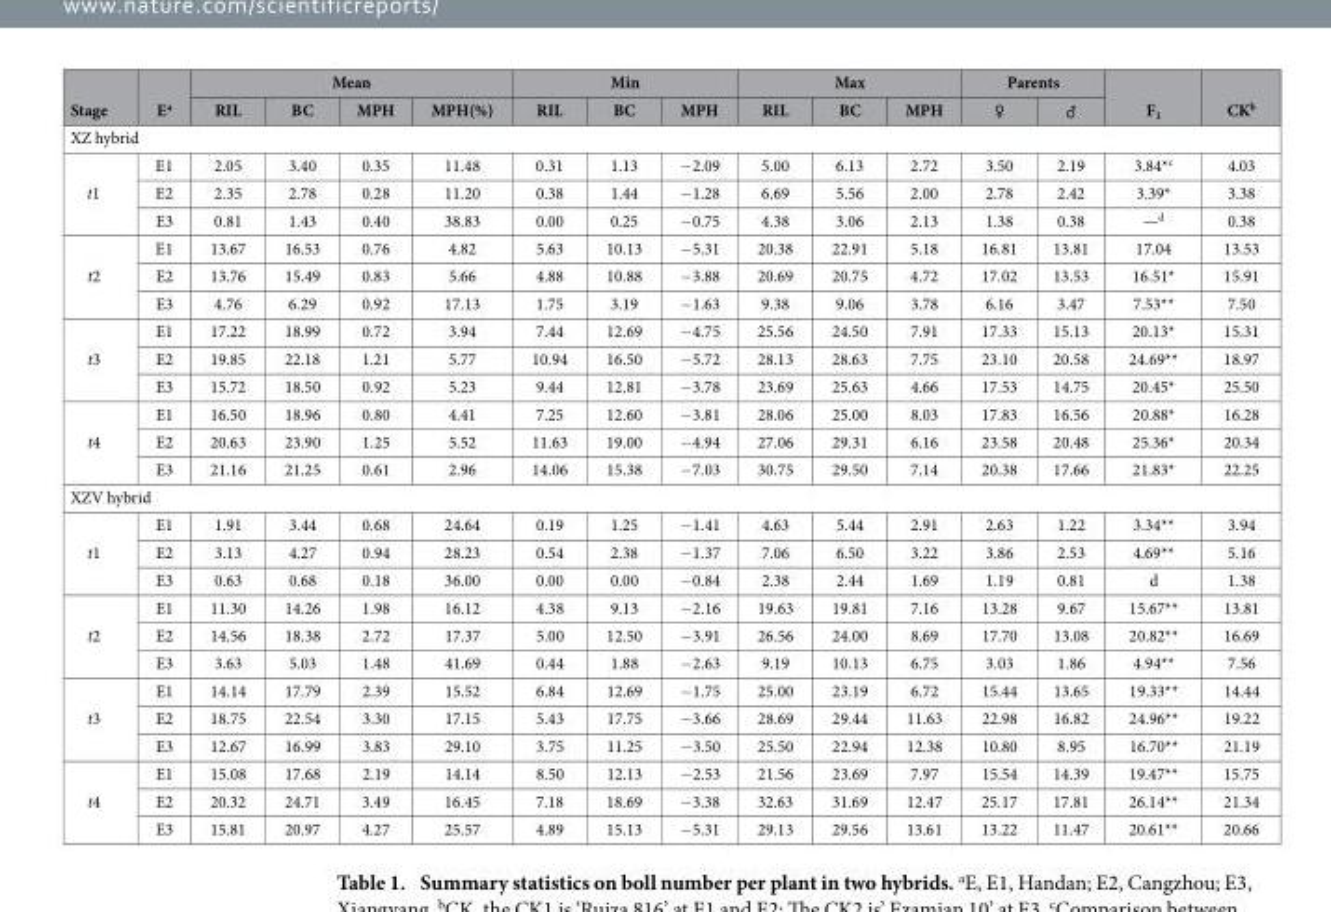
<table><thead><tr><td rowspan="2">Stage</td><td rowspan="2">E<sup>a</sup></td><td colspan="4">Mean</td><td colspan="3">Min</td><td colspan="3">Max</td><td colspan="2">Parents</td><td rowspan="2">F<sub>1</sub></td><td rowspan="2">CK<sup>b</sup></td></tr><tr><td>RIL</td><td>BC</td><td>MPH</td><td>MPH(%)</td><td>RIL</td><td>BC</td><td>MPH</td><td>RIL</td><td>BC</td><td>MPH</td><td>♀</td><td>♂</td></tr></thead><tbody><tr><td colspan="16">XZ hybrid</td></tr><tr><td rowspan="3">t1</td><td>E1</td><td>2.05</td><td>3.40</td><td>0.35</td><td>11.48</td><td>0.31</td><td>1.13</td><td>− 2.09</td><td>5.00</td><td>6.13</td><td>2.72</td><td>3.50</td><td>2.19</td><td>3.84*<sup>c</sup></td><td>4.03</td></tr><tr><td>E2</td><td>2.35</td><td>2.78</td><td>0.28</td><td>11.20</td><td>0.38</td><td>1.44</td><td>− 1.28</td><td>6.69</td><td>5.56</td><td>2.00</td><td>2.78</td><td>2.42</td><td>3.39*</td><td>3.38</td></tr><tr><td>E3</td><td>0.81</td><td>1.43</td><td>0.40</td><td>38.83</td><td>0.00</td><td>0.25</td><td>− 0.75</td><td>4.38</td><td>3.06</td><td>2.13</td><td>1.38</td><td>0.38</td><td>—d</td><td>0.38</td></tr><tr><td rowspan="3">t2</td><td>E1</td><td>13.67</td><td>16.53</td><td>0.76</td><td>4.82</td><td>5.63</td><td>10.13</td><td>− 5.31</td><td>20.38</td><td>22.91</td><td>5.18</td><td>16.81</td><td>13.81</td><td>17.04</td><td>13.53</td></tr><tr><td>E2</td><td>13.76</td><td>15.49</td><td>0.83</td><td>5.66</td><td>4.88</td><td>10.88</td><td>− 3.88</td><td>20.69</td><td>20.75</td><td>4.72</td><td>17.02</td><td>13.53</td><td>16.51*</td><td>15.91</td></tr><tr><td>E3</td><td>4.76</td><td>6.29</td><td>0.92</td><td>17.13</td><td>1.75</td><td>3.19</td><td>− 1.63</td><td>9.38</td><td>9.06</td><td>3.78</td><td>6.16</td><td>3.47</td><td>7.53**</td><td>7.50</td></tr><tr><td rowspan="3">t3</td><td>E1</td><td>17.22</td><td>18.99</td><td>0.72</td><td>3.94</td><td>7.44</td><td>12.69</td><td>− 4.75</td><td>25.56</td><td>24.50</td><td>7.91</td><td>17.33</td><td>15.13</td><td>20.13*</td><td>15.31</td></tr><tr><td>E2</td><td>19.85</td><td>22.18</td><td>1.21</td><td>5.77</td><td>10.94</td><td>16.50</td><td>− 5.72</td><td>28.13</td><td>28.63</td><td>7.75</td><td>23.10</td><td>20.58</td><td>24.69**</td><td>18.97</td></tr><tr><td>E3</td><td>15.72</td><td>18.50</td><td>0.92</td><td>5.23</td><td>9.44</td><td>12.81</td><td>− 3.78</td><td>23.69</td><td>25.63</td><td>4.66</td><td>17.53</td><td>14.75</td><td>20.45*</td><td>25.50</td></tr><tr><td rowspan="3">t4</td><td>E1</td><td>16.50</td><td>18.96</td><td>0.80</td><td>4.41</td><td>7.25</td><td>12.60</td><td>− 3.81</td><td>28.06</td><td>25.00</td><td>8.03</td><td>17.83</td><td>16.56</td><td>20.88*</td><td>16.28</td></tr><tr><td>E2</td><td>20.63</td><td>23.90</td><td>1.25</td><td>5.52</td><td>11.63</td><td>19.00</td><td>− 4.94</td><td>27.06</td><td>29.31</td><td>6.16</td><td>23.58</td><td>20.48</td><td>25.36*</td><td>20.34</td></tr><tr><td>E3</td><td>21.16</td><td>21.25</td><td>0.61</td><td>2.96</td><td>14.06</td><td>15.38</td><td>− 7.03</td><td>30.75</td><td>29.50</td><td>7.14</td><td>20.38</td><td>17.66</td><td>21.83*</td><td>22.25</td></tr><tr><td colspan="16">XZV hybrid</td></tr><tr><td rowspan="3">t1</td><td>E1</td><td>1.91</td><td>3.44</td><td>0.68</td><td>24.64</td><td>0.19</td><td>1.25</td><td>− 1.41</td><td>4.63</td><td>5.44</td><td>2.91</td><td>2.63</td><td>1.22</td><td>3.34**</td><td>3.94</td></tr><tr><td>E2</td><td>3.13</td><td>4.27</td><td>0.94</td><td>28.23</td><td>0.54</td><td>2.38</td><td>− 1.37</td><td>7.06</td><td>6.50</td><td>3.22</td><td>3.86</td><td>2.53</td><td>4.69**</td><td>5.16</td></tr><tr><td>E3</td><td>0.63</td><td>0.68</td><td>0.18</td><td>36.00</td><td>0.00</td><td>0.00</td><td>− 0.84</td><td>2.38</td><td>2.44</td><td>1.69</td><td>1.19</td><td>0.81</td><td>d</td><td>1.38</td></tr><tr><td rowspan="3">t2</td><td>E1</td><td>11.30</td><td>14.26</td><td>1.98</td><td>16.12</td><td>4.38</td><td>9.13</td><td>− 2.16</td><td>19.63</td><td>19.81</td><td>7.16</td><td>13.28</td><td>9.67</td><td>15.67**</td><td>13.81</td></tr><tr><td>E2</td><td>14.56</td><td>18.38</td><td>2.72</td><td>17.37</td><td>5.00</td><td>12.50</td><td>− 3.91</td><td>26.56</td><td>24.00</td><td>8.69</td><td>17.70</td><td>13.08</td><td>20.82**</td><td>16.69</td></tr><tr><td>E3</td><td>3.63</td><td>5.03</td><td>1.48</td><td>41.69</td><td>0.44</td><td>1.88</td><td>− 2.63</td><td>9.19</td><td>10.13</td><td>6.75</td><td>3.03</td><td>1.86</td><td>4.94**</td><td>7.56</td></tr><tr><td rowspan="3">t3</td><td>E1</td><td>14.14</td><td>17.79</td><td>2.39</td><td>15.52</td><td>6.84</td><td>12.69</td><td>− 1.75</td><td>25.00</td><td>23.19</td><td>6.72</td><td>15.44</td><td>13.65</td><td>19.33**</td><td>14.44</td></tr><tr><td>E2</td><td>18.75</td><td>22.54</td><td>3.30</td><td>17.15</td><td>5.43</td><td>17.75</td><td>− 3.66</td><td>28.69</td><td>29.44</td><td>11.63</td><td>22.98</td><td>16.82</td><td>24.96**</td><td>19.22</td></tr><tr><td>E3</td><td>12.67</td><td>16.99</td><td>3.83</td><td>29.10</td><td>3.75</td><td>11.25</td><td>− 3.50</td><td>25.50</td><td>22.94</td><td>12.38</td><td>10.80</td><td>8.95</td><td>16.70**</td><td>21.19</td></tr><tr><td rowspan="3">t4</td><td>E1</td><td>15.08</td><td>17.68</td><td>2.19</td><td>14.14</td><td>8.50</td><td>12.13</td><td>− 2.53</td><td>21.56</td><td>23.69</td><td>7.97</td><td>15.54</td><td>14.39</td><td>19.47**</td><td>15.75</td></tr><tr><td>E2</td><td>20.32</td><td>24.71</td><td>3.49</td><td>16.45</td><td>7.18</td><td>18.69</td><td>− 3.38</td><td>32.63</td><td>31.69</td><td>12.47</td><td>25.17</td><td>17.81</td><td>26.14**</td><td>21.34</td></tr><tr><td>E3</td><td>15.81</td><td>20.97</td><td>4.27</td><td>25.57</td><td>4.89</td><td>15.13</td><td>− 5.31</td><td>29.13</td><td>29.56</td><td>13.61</td><td>13.22</td><td>11.47</td><td>20.61**</td><td>20.66</td></tr></tbody></table>